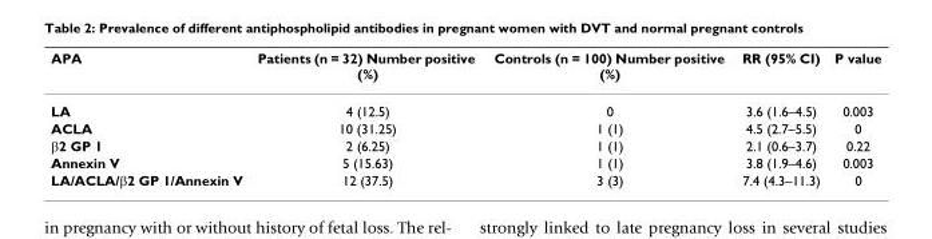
<table><thead><tr><td>APA</td><td>Patients (n = 32) Number positive (%)</td><td>Controls (n = 100) Number positive (%)</td><td>RR (95% CI)</td><td>P value</td></tr></thead><tbody><tr><td>LA</td><td>4 (12.5)</td><td>0</td><td>3.6 (1.6–4.5)</td><td>0.003</td></tr><tr><td>ACLA</td><td>10 (31.25)</td><td>1 (1)</td><td>4.5 (2.7–5.5)</td><td>0</td></tr><tr><td>β2 GP 1</td><td>2 (6.25)</td><td>1 (1)</td><td>2.1 (0.6–3.7)</td><td>0.22</td></tr><tr><td>Annexin V</td><td>5 (15.63)</td><td>1 (1)</td><td>3.8 (1.9–4.6)</td><td>0.003</td></tr><tr><td>LA/ACLA/β2 GP 1/Annexin V</td><td>12 (37.5)</td><td>3 (3)</td><td>7.4 (4.3–11.3)</td><td>0</td></tr></tbody></table>